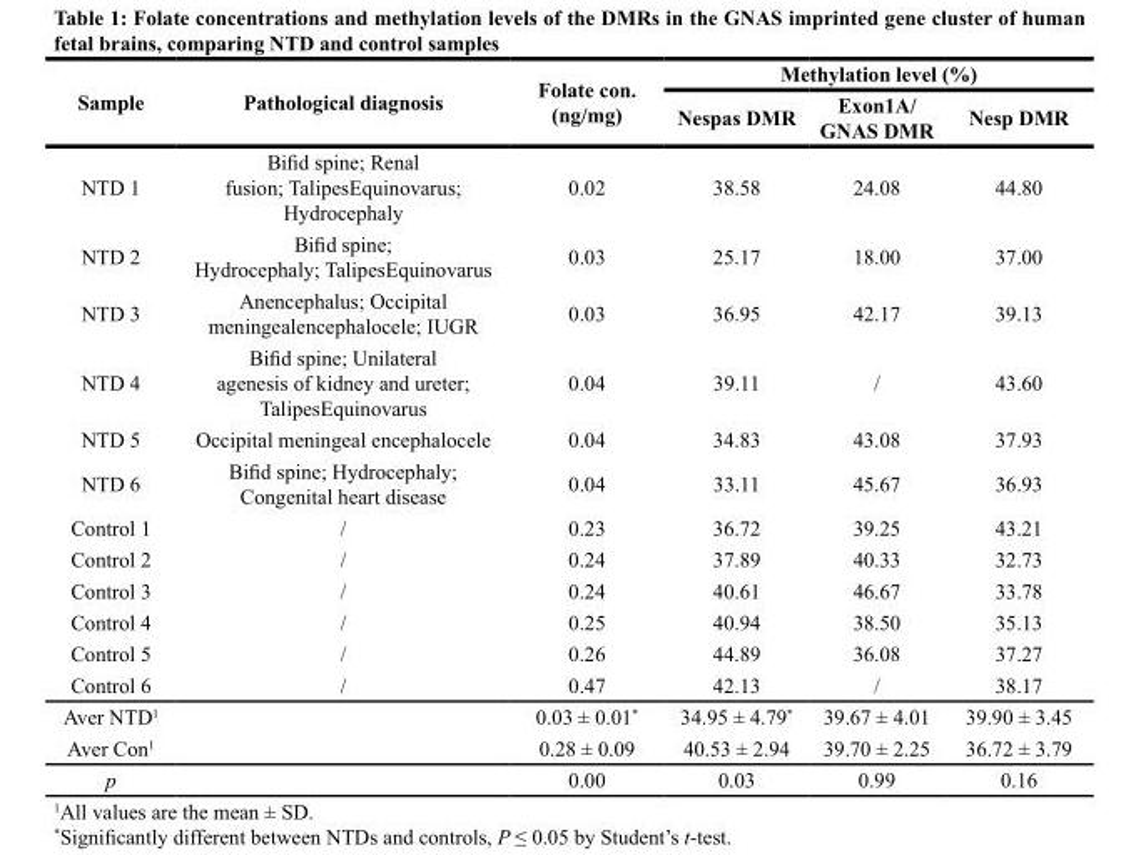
<table><thead><tr><td rowspan="2">Sample</td><td rowspan="2">Pathological diagnosis</td><td rowspan="2">Folate con. (ng/mg)</td><td colspan="3">Methylation level (%)</td></tr><tr><td>Nespas DMR</td><td>Exon1A/ GNAS DMR</td><td>Nesp DMR</td></tr></thead><tbody><tr><td>NTD 1</td><td>Bifid spine; Renal fusion; TalipesEquinovarus; Hydrocephaly</td><td>0.02</td><td>38.58</td><td>24.08</td><td>44.80</td></tr><tr><td>NTD 2</td><td>Bifid spine; Hydrocephaly; TalipesEquinovarus</td><td>0.03</td><td>25.17</td><td>18.00</td><td>37.00</td></tr><tr><td>NTD 3</td><td>Anencephalus; Occipital meningealencephalocele; IUGR</td><td>0.03</td><td>36.95</td><td>42.17</td><td>39.13</td></tr><tr><td>NTD 4</td><td>Bifid spine; Unilateral agenesis of kidney and ureter; TalipesEquinovarus</td><td>0.04</td><td>39.11</td><td>/</td><td>43.60</td></tr><tr><td>NTD 5</td><td>Occipital meningeal encephalocele</td><td>0.04</td><td>34.83</td><td>43.08</td><td>37.93</td></tr><tr><td>NTD 6</td><td>Bifid spine; Hydrocephaly; Congenital heart disease</td><td>0.04</td><td>33.11</td><td>45.67</td><td>36.93</td></tr><tr><td>Control 1</td><td>/</td><td>0.23</td><td>36.72</td><td>39.25</td><td>43.21</td></tr><tr><td>Control 2</td><td>/</td><td>0.24</td><td>37.89</td><td>40.33</td><td>32.73</td></tr><tr><td>Control 3</td><td>/</td><td>0.24</td><td>40.61</td><td>46.67</td><td>33.78</td></tr><tr><td>Control 4</td><td>/</td><td>0.25</td><td>40.94</td><td>38.50</td><td>35.13</td></tr><tr><td>Control 5</td><td>/</td><td>0.26</td><td>44.89</td><td>36.08</td><td>37.27</td></tr><tr><td>Control 6</td><td>/</td><td>0.47</td><td>42.13</td><td>/</td><td>38.17</td></tr><tr><td>Aver NTD<sup>1</sup></td><td></td><td>0.03 ± 0.01*</td><td>34.95 ± 4.79*</td><td>39.67 ± 4.01</td><td>39.90 ± 3.45</td></tr><tr><td>Aver Con<sup>1</sup></td><td></td><td>0.28 ± 0.09</td><td>40.53 ± 2.94</td><td>39.70 ± 2.25</td><td>36.72 ± 3.79</td></tr><tr><td>p</td><td></td><td>0.00</td><td>0.03</td><td>0.99</td><td>0.16</td></tr></tbody></table>